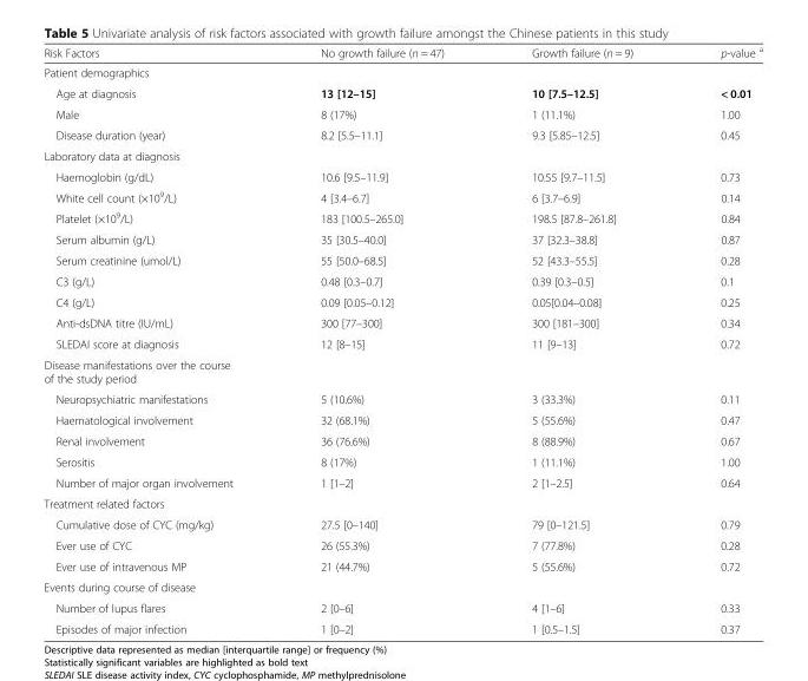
<table><thead><tr><td>Risk Factors</td><td>No growth failure (n = 47)</td><td>Growth failure (n = 9)</td><td>p-value <sup>a</sup></td></tr></thead><tbody><tr><td colspan="4">Patient demographics</td></tr><tr><td>Age at diagnosis</td><td>13 [12–15]</td><td>10 [7.5–12.5]</td><td>&lt; 0.01</td></tr><tr><td>Male</td><td>8 (17%)</td><td>1 (11.1%)</td><td>1.00</td></tr><tr><td>Disease duration (year)</td><td>8.2 [5.5–11.1]</td><td>9.3 [5.85–12.5]</td><td>0.45</td></tr><tr><td colspan="4">Laboratory data at diagnosis</td></tr><tr><td>Haemoglobin (g/dL)</td><td>10.6 [9.5–11.9]</td><td>10.55 [9.7–11.5]</td><td>0.73</td></tr><tr><td>White cell count (×10<sup>9</sup>/L)</td><td>4 [3.4–6.7]</td><td>6 [3.7–6.9]</td><td>0.14</td></tr><tr><td>Platelet (×10<sup>9</sup>/L)</td><td>183 [100.5–265.0]</td><td>198.5 [87.8–261.8]</td><td>0.84</td></tr><tr><td>Serum albumin (g/L)</td><td>35 [30.5–40.0]</td><td>37 [32.3–38.8]</td><td>0.87</td></tr><tr><td>Serum creatinine (umol/L)</td><td>55 [50.0–68.5]</td><td>52 [43.3–55.5]</td><td>0.28</td></tr><tr><td>C3 (g/L)</td><td>0.48 [0.3–0.7]</td><td>0.39 [0.3–0.5]</td><td>0.1</td></tr><tr><td>C4 (g/L)</td><td>0.09 [0.05–0.12]</td><td>0.05[0.04–0.08]</td><td>0.25</td></tr><tr><td>Anti-dsDNA titre (IU/mL)</td><td>300 [77–300]</td><td>300 [181–300]</td><td>0.34</td></tr><tr><td>SLEDAI score at diagnosis</td><td>12 [8–15]</td><td>11 [9–13]</td><td>0.72</td></tr><tr><td colspan="4">Disease manifestations over the course of the study period</td></tr><tr><td>Neuropsychiatric manifestations</td><td>5 (10.6%)</td><td>3 (33.3%)</td><td>0.11</td></tr><tr><td>Haematological involvement</td><td>32 (68.1%)</td><td>5 (55.6%)</td><td>0.47</td></tr><tr><td>Renal involvement</td><td>36 (76.6%)</td><td>8 (88.9%)</td><td>0.67</td></tr><tr><td>Serositis</td><td>8 (17%)</td><td>1 (11.1%)</td><td>1.00</td></tr><tr><td>Number of major organ involvement</td><td>1 [1–2]</td><td>2 [1–2.5]</td><td>0.64</td></tr><tr><td colspan="4">Treatment related factors</td></tr><tr><td>Cumulative dose of CYC (mg/kg)</td><td>27.5 [0–140]</td><td>79 [0–121.5]</td><td>0.79</td></tr><tr><td>Ever use of CYC</td><td>26 (55.3%)</td><td>7 (77.8%)</td><td>0.28</td></tr><tr><td>Ever use of intravenous MP</td><td>21 (44.7%)</td><td>5 (55.6%)</td><td>0.72</td></tr><tr><td colspan="4">Events during course of disease</td></tr><tr><td>Number of lupus flares</td><td>2 [0–6]</td><td>4 [1–6]</td><td>0.33</td></tr><tr><td>Episodes of major infection</td><td>1 [0–2]</td><td>1 [0.5–1.5]</td><td>0.37</td></tr></tbody></table>